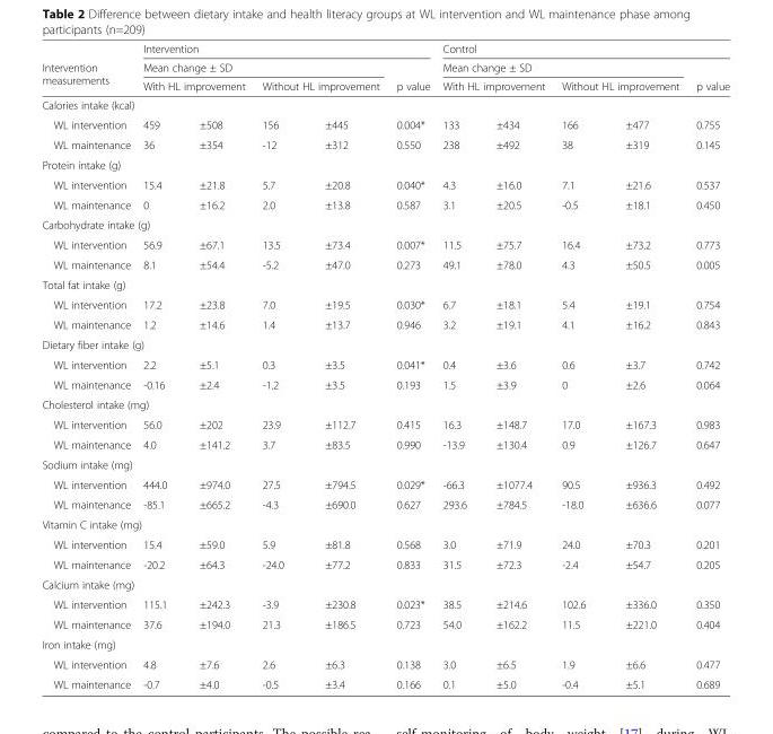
<table><thead><tr><td rowspan="3">Intervention measurements</td><td colspan="5">Intervention</td><td colspan="5">Control</td></tr><tr><td colspan="4">Mean change ± SD</td><td rowspan="2">p value</td><td colspan="4">Mean change ± SD</td><td rowspan="2">p value</td></tr><tr><td colspan="2">With HL improvement</td><td colspan="2">Without HL improvement</td><td colspan="2">With HL improvement</td><td colspan="2">Without HL improvement</td></tr><tr><td colspan="11">Calories intake (kcal)</td></tr><tr><td>WL intervention</td><td>459</td><td>±508</td><td>156</td><td>±445</td><td>0.004*</td><td>133</td><td>±434</td><td>166</td><td>±477</td><td>0.755</td></tr></thead><tbody><tr><td>WL maintenance</td><td>36</td><td>±354</td><td>-12</td><td>±312</td><td>0.550</td><td>238</td><td>±492</td><td>38</td><td>±319</td><td>0.145</td></tr><tr><td colspan="11">Protein intake (g)</td></tr><tr><td>WL intervention</td><td>15.4</td><td>±21.8</td><td>5.7</td><td>±20.8</td><td>0.040*</td><td>4.3</td><td>±16.0</td><td>7.1</td><td>±21.6</td><td>0.537</td></tr><tr><td>WL maintenance</td><td>0</td><td>±16.2</td><td>2.0</td><td>±13.8</td><td>0.587</td><td>3.1</td><td>±20.5</td><td>-0.5</td><td>±18.1</td><td>0.450</td></tr><tr><td colspan="11">Carbohydrate intake (g)</td></tr><tr><td>WL intervention</td><td>56.9</td><td>±67.1</td><td>13.5</td><td>±73.4</td><td>0.007*</td><td>11.5</td><td>±75.7</td><td>16.4</td><td>±73.2</td><td>0.773</td></tr><tr><td>WL maintenance</td><td>8.1</td><td>±54.4</td><td>-5.2</td><td>±47.0</td><td>0.273</td><td>49.1</td><td>±78.0</td><td>4.3</td><td>±50.5</td><td>0.005</td></tr><tr><td colspan="11">Total fat intake (g)</td></tr><tr><td>WL intervention</td><td>17.2</td><td>±23.8</td><td>7.0</td><td>±19.5</td><td>0.030*</td><td>6.7</td><td>±18.1</td><td>5.4</td><td>±19.1</td><td>0.754</td></tr><tr><td>WL maintenance</td><td>1.2</td><td>±14.6</td><td>1.4</td><td>±13.7</td><td>0.946</td><td>3.2</td><td>±19.1</td><td>4.1</td><td>±16.2</td><td>0.843</td></tr><tr><td colspan="11">Dietary fiber intake (g)</td></tr><tr><td>WL intervention</td><td>2.2</td><td>±5.1</td><td>0.3</td><td>±3.5</td><td>0.041*</td><td>0.4</td><td>±3.6</td><td>0.6</td><td>±3.7</td><td>0.742</td></tr><tr><td>WL maintenance</td><td>-0.16</td><td>±2.4</td><td>-1.2</td><td>±3.5</td><td>0.193</td><td>1.5</td><td>±3.9</td><td>0</td><td>±2.6</td><td>0.064</td></tr><tr><td colspan="11">Cholesterol intake (mg)</td></tr><tr><td>WL intervention</td><td>56.0</td><td>±202</td><td>23.9</td><td>±112.7</td><td>0.415</td><td>16.3</td><td>±148.7</td><td>17.0</td><td>±167.3</td><td>0.983</td></tr><tr><td>WL maintenance</td><td>4.0</td><td>±141.2</td><td>3.7</td><td>±83.5</td><td>0.990</td><td>-13.9</td><td>±130.4</td><td>0.9</td><td>±126.7</td><td>0.647</td></tr><tr><td colspan="11">Sodium intake (mg)</td></tr><tr><td>WL intervention</td><td>444.0</td><td>±974.0</td><td>27.5</td><td>±794.5</td><td>0.029*</td><td>-66.3</td><td>±1077.4</td><td>90.5</td><td>±936.3</td><td>0.492</td></tr><tr><td>WL maintenance</td><td>-85.1</td><td>±665.2</td><td>-4.3</td><td>±690.0</td><td>0.627</td><td>293.6</td><td>±784.5</td><td>-18.0</td><td>±636.6</td><td>0.077</td></tr><tr><td colspan="11">Vitamin C intake (mg)</td></tr><tr><td>WL intervention</td><td>15.4</td><td>±59.0</td><td>5.9</td><td>±81.8</td><td>0.568</td><td>3.0</td><td>±71.9</td><td>24.0</td><td>±70.3</td><td>0.201</td></tr><tr><td>WL maintenance</td><td>-20.2</td><td>±64.3</td><td>-24.0</td><td>±77.2</td><td>0.833</td><td>31.5</td><td>±72.3</td><td>-2.4</td><td>±54.7</td><td>0.205</td></tr><tr><td colspan="11">Calcium intake (mg)</td></tr><tr><td>WL intervention</td><td>115.1</td><td>±242.3</td><td>-3.9</td><td>±230.8</td><td>0.023*</td><td>38.5</td><td>±214.6</td><td>102.6</td><td>±336.0</td><td>0.350</td></tr><tr><td>WL maintenance</td><td>37.6</td><td>±194.0</td><td>21.3</td><td>±186.5</td><td>0.723</td><td>54.0</td><td>±162.2</td><td>11.5</td><td>±221.0</td><td>0.404</td></tr><tr><td colspan="11">Iron intake (mg)</td></tr><tr><td>WL intervention</td><td>4.8</td><td>±7.6</td><td>2.6</td><td>±6.3</td><td>0.138</td><td>3.0</td><td>±6.5</td><td>1.9</td><td>±6.6</td><td>0.477</td></tr><tr><td>WL maintenance</td><td>-0.7</td><td>±4.0</td><td>-0.5</td><td>±3.4</td><td>0.166</td><td>0.1</td><td>±5.0</td><td>-0.4</td><td>±5.1</td><td>0.689</td></tr></tbody></table>